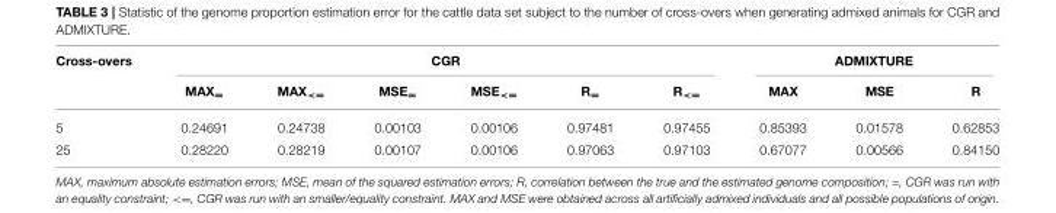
<table><thead><tr><td rowspan="2">Cross-overs</td><td colspan="6">CGR</td><td colspan="3">ADMIXTURE</td></tr><tr><td>MAX<sub>=</sub></td><td>MAX<sub>&lt;=</sub></td><td>MSE<sub>=</sub></td><td>MSE<sub>&lt;=</sub></td><td>R<sub>=</sub></td><td>R<sub>&lt;=</sub></td><td>MAX</td><td>MSE</td><td>R</td></tr></thead><tbody><tr><td>5</td><td>0.24691</td><td>0.24738</td><td>0.00103</td><td>0.00106</td><td>0.97481</td><td>0.97455</td><td>0.85393</td><td>0.01578</td><td>0.62853</td></tr><tr><td>25</td><td>0.28220</td><td>0.28219</td><td>0.00107</td><td>0.00106</td><td>0.97063</td><td>0.97103</td><td>0.67077</td><td>0.00566</td><td>0.84150</td></tr></tbody></table>